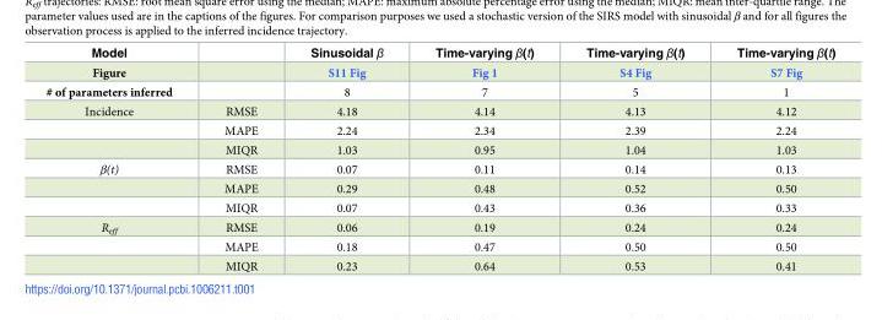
<table><thead><tr><td>Model</td><td></td><td>Sinusoidal β</td><td>Time-varying β(t)</td><td>Time-varying β(t)</td><td>Time-varying β(t)</td></tr></thead><tbody><tr><td>Figure</td><td></td><td>S11 Fig</td><td>Fig 1</td><td>S4 Fig</td><td>S7 Fig</td></tr><tr><td># of parameters inferred</td><td></td><td>8</td><td>7</td><td>5</td><td>1</td></tr><tr><td rowspan="3">Incidence</td><td>RMSE</td><td>4.18</td><td>4.14</td><td>4.13</td><td>4.12</td></tr><tr><td>MAPE</td><td>2.24</td><td>2.34</td><td>2.39</td><td>2.24</td></tr><tr><td>MIQR</td><td>1.03</td><td>0.95</td><td>1.04</td><td>1.03</td></tr><tr><td rowspan="3">β(t)</td><td>RMSE</td><td>0.07</td><td>0.11</td><td>0.14</td><td>0.13</td></tr><tr><td>MAPE</td><td>0.29</td><td>0.48</td><td>0.52</td><td>0.50</td></tr><tr><td>MIQR</td><td>0.07</td><td>0.43</td><td>0.36</td><td>0.33</td></tr><tr><td rowspan="3">R<sub>eff</sub></td><td>RMSE</td><td>0.06</td><td>0.19</td><td>0.24</td><td>0.24</td></tr><tr><td>MAPE</td><td>0.18</td><td>0.47</td><td>0.50</td><td>0.50</td></tr><tr><td>MIQR</td><td>0.23</td><td>0.64</td><td>0.53</td><td>0.41</td></tr></tbody></table>